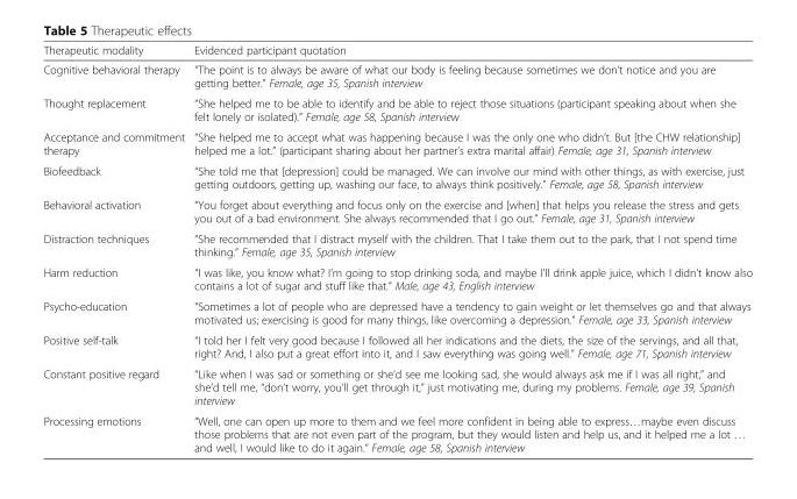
<table><thead><tr><td>Therapeutic modality</td><td>Evidenced participant quotation</td></tr></thead><tbody><tr><td>Cognitive behavioral therapy</td><td>“The point is to always be aware of what our body is feeling because sometimes we don’t notice and you are getting better.” Female, age 35, Spanish interview</td></tr><tr><td>Thought replacement</td><td>“She helped me to be able to identify and be able to reject those situations (participant speaking about when she felt lonely or isolated).” Female, age 58, Spanish interview</td></tr><tr><td>Acceptance and commitment therapy</td><td>“She helped me to accept what was happening because I was the only one who didn’t. But [the CHW relationship] helped me a lot.” (participant sharing about her partner’s extra marital affair) Female, age 31, Spanish interview</td></tr><tr><td>Biofeedback</td><td>“She told me that [depression] could be managed. We can involve our mind with other things, as with exercise, just getting outdoors, getting up, washing our face, to always think positively.” Female, age 58, Spanish interview</td></tr><tr><td>Behavioral activation</td><td>“You forget about everything and focus only on the exercise and [when] that helps you release the stress and gets you out of a bad environment. She always recommended that I go out.” Female, age 31, Spanish interview</td></tr><tr><td>Distraction techniques</td><td>“She recommended that I distract myself with the children. That I take them out to the park, that I not spend time thinking.” Female, age 35, Spanish interview</td></tr><tr><td>Harm reduction</td><td>“I was like, you know what? I’m going to stop drinking soda, and maybe I’ll drink apple juice, which I didn’t know also contains a lot of sugar and stuff like that.” Male, age 43, English interview</td></tr><tr><td>Psycho-education</td><td>“Sometimes a lot of people who are depressed have a tendency to gain weight or let themselves go and that always motivated us; exercising is good for many things, like overcoming a depression.” Female, age 33, Spanish interview</td></tr><tr><td>Positive self-talk</td><td>“I told her I felt very good because I followed all her indications and the diets, the size of the servings, and all that, right? And, I also put a great effort into it, and I saw everything was going well.” Female, age 71, Spanish interview</td></tr><tr><td>Constant positive regard</td><td>“Like when I was sad or something or she’d see me looking sad, she would always ask me if I was all right,” and she’d tell me, “don’t worry, you’ll get through it,” just motivating me, during my problems. Female, age 39, Spanish interview</td></tr><tr><td>Processing emotions</td><td>“Well, one can open up more to them and we feel more confident in being able to express…maybe even discuss those problems that are not even part of the program, but they would listen and help us, and it helped me a lot … and well, I would like to do it again.” Female, age 58, Spanish interview</td></tr></tbody></table>